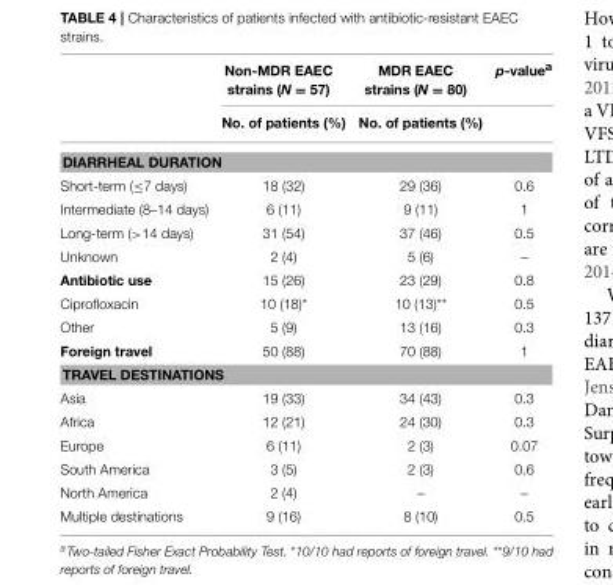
<table><thead><tr><td rowspan="2"></td><td rowspan="2">Non-MDR EAEC strains (N = 57) No. of patients (%)</td><td rowspan="2">MDR EAEC strains (N = 80) No. of patients (%)</td><td rowspan="2">p-value<sup>a</sup></td></tr><tr></tr></thead><tbody><tr><td colspan="4">DIARRHEAL DURATION</td></tr><tr><td>Short-term (≤7 days)</td><td>18 (32)</td><td>29 (36)</td><td>0.6</td></tr><tr><td>Intermediate (8–14 days)</td><td>6 (11)</td><td>9 (11)</td><td>1</td></tr><tr><td>Long-term (&gt;14 days)</td><td>31 (54)</td><td>37 (46)</td><td>0.5</td></tr><tr><td>Unknown</td><td>2 (4)</td><td>5 (6)</td><td>–</td></tr><tr><td>Antibiotic use</td><td>15 (26)</td><td>23 (29)</td><td>0.8</td></tr><tr><td>Ciprofloxacin</td><td>10 (18)*</td><td>10 (13)**</td><td>0.5</td></tr><tr><td>Other</td><td>5 (9)</td><td>13 (16)</td><td>0.3</td></tr><tr><td>Foreign travel</td><td>50 (88)</td><td>70 (88)</td><td>1</td></tr><tr><td colspan="4">TRAVEL DESTINATIONS</td></tr><tr><td>Asia</td><td>19 (33)</td><td>34 (43)</td><td>0.3</td></tr><tr><td>Africa</td><td>12 (21)</td><td>24 (30)</td><td>0.3</td></tr><tr><td>Europe</td><td>6 (11)</td><td>2 (3)</td><td>0.07</td></tr><tr><td>South America</td><td>3 (5)</td><td>2 (3)</td><td>0.6</td></tr><tr><td>North America</td><td>2 (4)</td><td>–</td><td>–</td></tr><tr><td>Multiple destinations</td><td>9 (16)</td><td>8 (10)</td><td>0.5</td></tr></tbody></table>